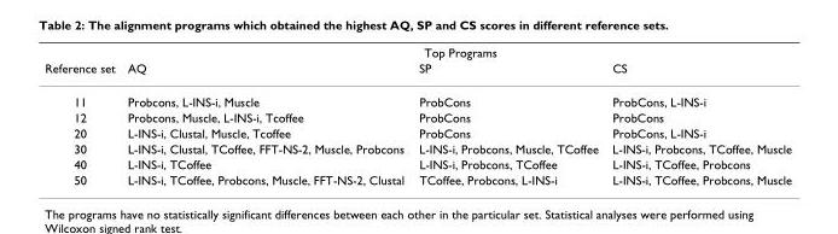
<table><thead><tr><td rowspan="2">Reference set</td><td colspan="3">Top Programs</td></tr><tr><td>AQ</td><td>SP</td><td>CS</td></tr></thead><tbody><tr><td>11</td><td>Probcons, L-INS-i, Muscle</td><td>ProbCons</td><td>ProbCons, L-INS-i</td></tr><tr><td>12</td><td>Probcons, Muscle, L-INS-i, Tcoffee</td><td>ProbCons</td><td>ProbCons</td></tr><tr><td>20</td><td>L-INS-i, Clustal, Muscle, Tcoffee</td><td>ProbCons</td><td>ProbCons, L-INS-i</td></tr><tr><td>30</td><td>L-INS-i, Clustal, TCoffee, FFT-NS-2, Muscle, Probcons</td><td>L-INS-i, Probcons, Muscle, TCoffee</td><td>L-INS-i, Probcons, TCoffee, Muscle</td></tr><tr><td>40</td><td>L-INS-i, TCoffee</td><td>L-INS-i, Probcons, TCoffee</td><td>L-INS-i, TCoffee, Probcons</td></tr><tr><td>50</td><td>L-INS-i, TCoffee, Probcons, Muscle, FFT-NS-2, Clustal</td><td>TCoffee, Probcons, L-INS-i</td><td>L-INS-i, TCoffee, Probcons, Muscle</td></tr></tbody></table>